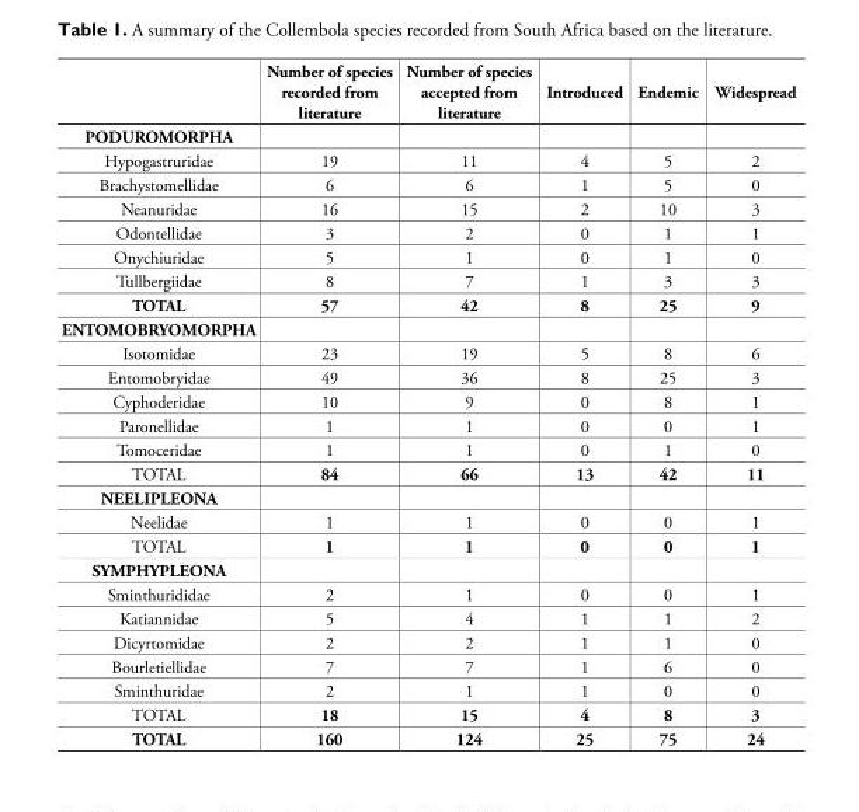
<table><thead><tr><td></td><td>Number of species recorded from literature</td><td>Number of species accepted from literature</td><td>Introduced</td><td>Endemic</td><td>Widespread</td></tr></thead><tbody><tr><td colspan="6">PODUROMORPHA</td></tr><tr><td>Hypogastruridae</td><td>19</td><td>11</td><td>4</td><td>5</td><td>2</td></tr><tr><td>Brachystomellidae</td><td>6</td><td>6</td><td>1</td><td>5</td><td>0</td></tr><tr><td>Neanuridae</td><td>16</td><td>15</td><td>2</td><td>10</td><td>3</td></tr><tr><td>Odontellidae</td><td>3</td><td>2</td><td>0</td><td>1</td><td>1</td></tr><tr><td>Onychiuridae</td><td>5</td><td>1</td><td>0</td><td>1</td><td>0</td></tr><tr><td>Tullbergiidae</td><td>8</td><td>7</td><td>1</td><td>3</td><td>3</td></tr><tr><td>TOTAL</td><td>57</td><td>42</td><td>8</td><td>25</td><td>9</td></tr><tr><td colspan="6">ENTOMOBRYOMORPHA</td></tr><tr><td>Isotomidae</td><td>23</td><td>19</td><td>5</td><td>8</td><td>6</td></tr><tr><td>Entomobryidae</td><td>49</td><td>36</td><td>8</td><td>25</td><td>3</td></tr><tr><td>Cyphoderidae</td><td>10</td><td>9</td><td>0</td><td>8</td><td>1</td></tr><tr><td>Paronellidae</td><td>1</td><td>1</td><td>0</td><td>0</td><td>1</td></tr><tr><td>Tomoceridae</td><td>1</td><td>1</td><td>0</td><td>1</td><td>0</td></tr><tr><td>TOTAL</td><td>84</td><td>66</td><td>13</td><td>42</td><td>11</td></tr><tr><td colspan="6">NEELIPLEONA</td></tr><tr><td>Neelidae</td><td>1</td><td>1</td><td>0</td><td>0</td><td>1</td></tr><tr><td>TOTAL</td><td>1</td><td>1</td><td>0</td><td>0</td><td>1</td></tr><tr><td colspan="6">SYMPHYPLEONA</td></tr><tr><td>Sminthurididae</td><td>2</td><td>1</td><td>0</td><td>0</td><td>1</td></tr><tr><td>Katiannidae</td><td>5</td><td>4</td><td>1</td><td>1</td><td>2</td></tr><tr><td>Dicyrtomidae</td><td>2</td><td>2</td><td>1</td><td>1</td><td>0</td></tr><tr><td>Bourletiellidae</td><td>7</td><td>7</td><td>1</td><td>6</td><td>0</td></tr><tr><td>Sminthuridae</td><td>2</td><td>1</td><td>1</td><td>0</td><td>0</td></tr><tr><td>TOTAL</td><td>18</td><td>15</td><td>4</td><td>8</td><td>3</td></tr><tr><td>TOTAL</td><td>160</td><td>124</td><td>25</td><td>75</td><td>24</td></tr></tbody></table>